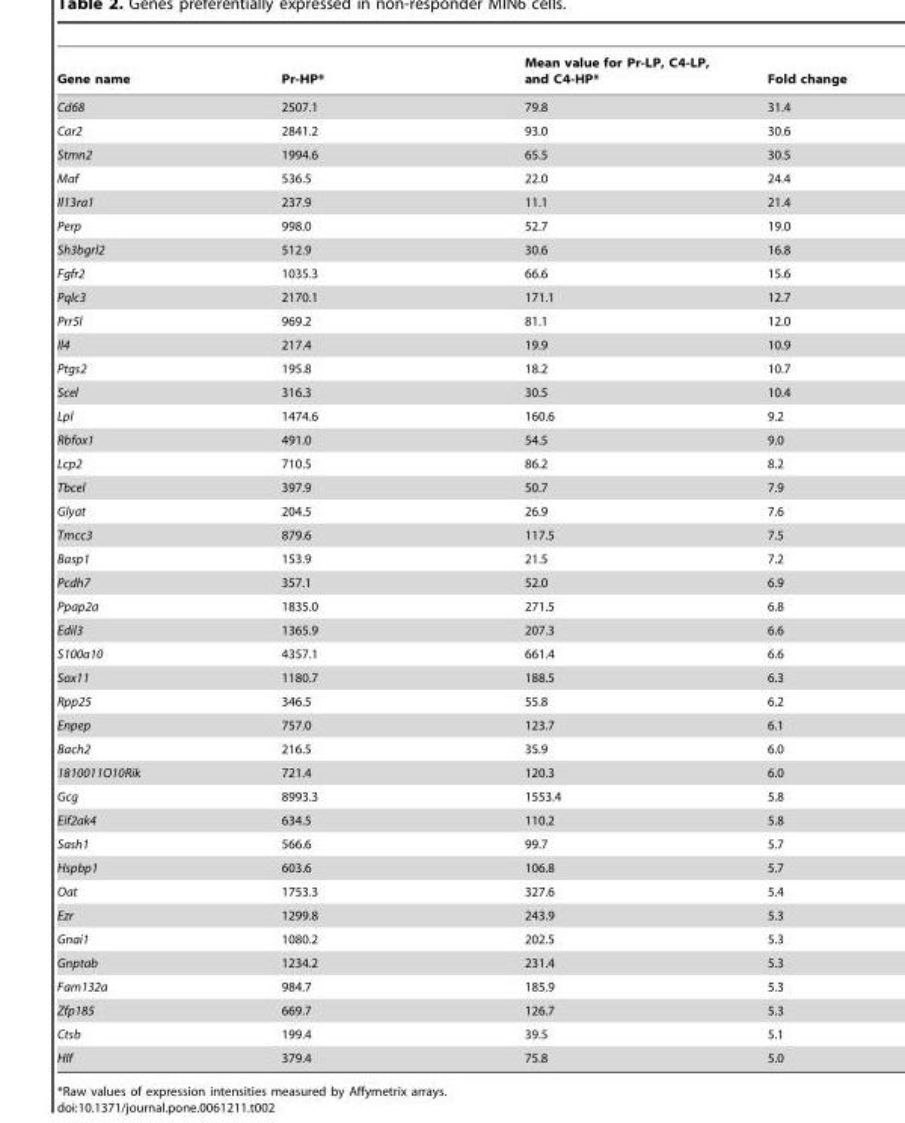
<table><thead><tr><td>Gene name</td><td>Pr-HP*</td><td>Mean value for Pr-LP, C4-LP, and C4-HP*</td><td>Fold change</td></tr></thead><tbody><tr><td>Cd68</td><td>2507.1</td><td>79.8</td><td>31.4</td></tr><tr><td>Car2</td><td>2841.2</td><td>93.0</td><td>30.6</td></tr><tr><td>Stmn2</td><td>1994.6</td><td>65.5</td><td>30.5</td></tr><tr><td>Maf</td><td>536.5</td><td>22.0</td><td>24.4</td></tr><tr><td>Il13ra1</td><td>237.9</td><td>11.1</td><td>21.4</td></tr><tr><td>Perp</td><td>998.0</td><td>52.7</td><td>19.0</td></tr><tr><td>Sh3bgrl2</td><td>512.9</td><td>30.6</td><td>16.8</td></tr><tr><td>Fgfr2</td><td>1035.3</td><td>66.6</td><td>15.6</td></tr><tr><td>Pqlc3</td><td>2170.1</td><td>171.1</td><td>12.7</td></tr><tr><td>Prr5l</td><td>969.2</td><td>81.1</td><td>12.0</td></tr><tr><td>Il4</td><td>217.4</td><td>19.9</td><td>10.9</td></tr><tr><td>Ptgs2</td><td>195.8</td><td>18.2</td><td>10.7</td></tr><tr><td>Scel</td><td>316.3</td><td>30.5</td><td>10.4</td></tr><tr><td>Lpl</td><td>1474.6</td><td>160.6</td><td>9.2</td></tr><tr><td>Rbfox1</td><td>491.0</td><td>54.5</td><td>9.0</td></tr><tr><td>Lcp2</td><td>710.5</td><td>86.2</td><td>8.2</td></tr><tr><td>Tbcel</td><td>397.9</td><td>50.7</td><td>7.9</td></tr><tr><td>Glyat</td><td>204.5</td><td>26.9</td><td>7.6</td></tr><tr><td>Tmcc3</td><td>879.6</td><td>117.5</td><td>7.5</td></tr><tr><td>Basp1</td><td>153.9</td><td>21.5</td><td>7.2</td></tr><tr><td>Pcdh7</td><td>357.1</td><td>52.0</td><td>6.9</td></tr><tr><td>Ppap2a</td><td>1835.0</td><td>271.5</td><td>6.8</td></tr><tr><td>Edil3</td><td>1365.9</td><td>207.3</td><td>6.6</td></tr><tr><td>S100a10</td><td>4357.1</td><td>661.4</td><td>6.6</td></tr><tr><td>Sox11</td><td>1180.7</td><td>188.5</td><td>6.3</td></tr><tr><td>Rpp25</td><td>346.5</td><td>55.8</td><td>6.2</td></tr><tr><td>Enpep</td><td>757.0</td><td>123.7</td><td>6.1</td></tr><tr><td>Bach2</td><td>216.5</td><td>35.9</td><td>6.0</td></tr><tr><td>1810011O10Rik</td><td>721.4</td><td>120.3</td><td>6.0</td></tr><tr><td>Gcg</td><td>8993.3</td><td>1553.4</td><td>5.8</td></tr><tr><td>Eif2ak4</td><td>634.5</td><td>110.2</td><td>5.8</td></tr><tr><td>Sash1</td><td>566.6</td><td>99.7</td><td>5.7</td></tr><tr><td>Hspbp1</td><td>603.6</td><td>106.8</td><td>5.7</td></tr><tr><td>Oat</td><td>1753.3</td><td>327.6</td><td>5.4</td></tr><tr><td>Ezr</td><td>1299.8</td><td>243.9</td><td>5.3</td></tr><tr><td>Gnai1</td><td>1080.2</td><td>202.5</td><td>5.3</td></tr><tr><td>Gnptab</td><td>1234.2</td><td>231.4</td><td>5.3</td></tr><tr><td>Fam132a</td><td>984.7</td><td>185.9</td><td>5.3</td></tr><tr><td>Zfp185</td><td>669.7</td><td>126.7</td><td>5.3</td></tr><tr><td>Ctsb</td><td>199.4</td><td>39.5</td><td>5.1</td></tr><tr><td>Hlf</td><td>379.4</td><td>75.8</td><td>5.0</td></tr></tbody></table>